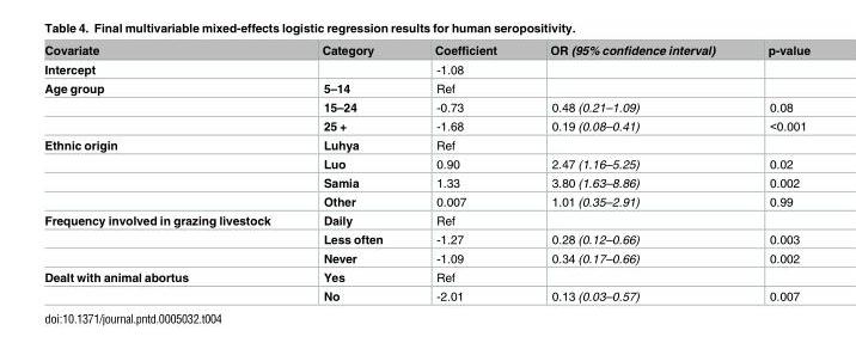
<table><thead><tr><td>Covariate</td><td>Category</td><td>Coefficient</td><td>OR (95% confidence interval)</td><td>p-value</td></tr></thead><tbody><tr><td>Intercept</td><td></td><td>-1.08</td><td></td><td></td></tr><tr><td rowspan="3">Age group</td><td>5–14</td><td>Ref</td><td></td><td></td></tr><tr><td>15–24</td><td>-0.73</td><td>0.48 (0.21–1.09)</td><td>0.08</td></tr><tr><td>25 +</td><td>-1.68</td><td>0.19 (0.08–0.41)</td><td>&lt;0.001</td></tr><tr><td rowspan="4">Ethnic origin</td><td>Luhya</td><td>Ref</td><td></td><td></td></tr><tr><td>Luo</td><td>0.90</td><td>2.47 (1.16–5.25)</td><td>0.02</td></tr><tr><td>Samia</td><td>1.33</td><td>3.80 (1.63–8.86)</td><td>0.002</td></tr><tr><td>Other</td><td>0.007</td><td>1.01 (0.35–2.91)</td><td>0.99</td></tr><tr><td rowspan="3">Frequency involved in grazing livestock</td><td>Daily</td><td>Ref</td><td></td><td></td></tr><tr><td>Less often</td><td>-1.27</td><td>0.28 (0.12–0.66)</td><td>0.003</td></tr><tr><td>Never</td><td>-1.09</td><td>0.34 (0.17–0.66)</td><td>0.002</td></tr><tr><td rowspan="2">Dealt with animal abortus</td><td>Yes</td><td>Ref</td><td></td><td></td></tr><tr><td>No</td><td>-2.01</td><td>0.13 (0.03–0.57)</td><td>0.007</td></tr></tbody></table>